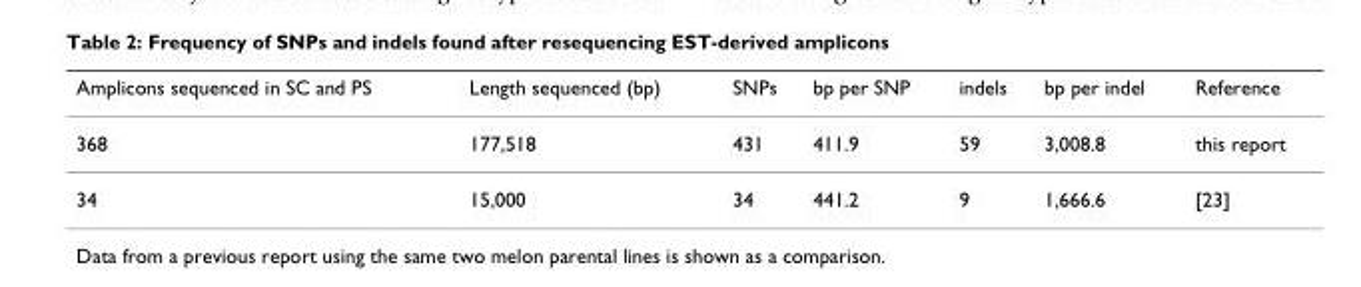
<table><thead><tr><td>Amplicons sequenced in SC and PS</td><td>Length sequenced (bp)</td><td>SNPs</td><td>bp per SNP</td><td>indels</td><td>bp per indel</td><td>Reference</td></tr></thead><tbody><tr><td>368</td><td>177,518</td><td>431</td><td>411.9</td><td>59</td><td>3,008.8</td><td>this report</td></tr><tr><td>34</td><td>15,000</td><td>34</td><td>441.2</td><td>9</td><td>1,666.6</td><td>[23]</td></tr></tbody></table>